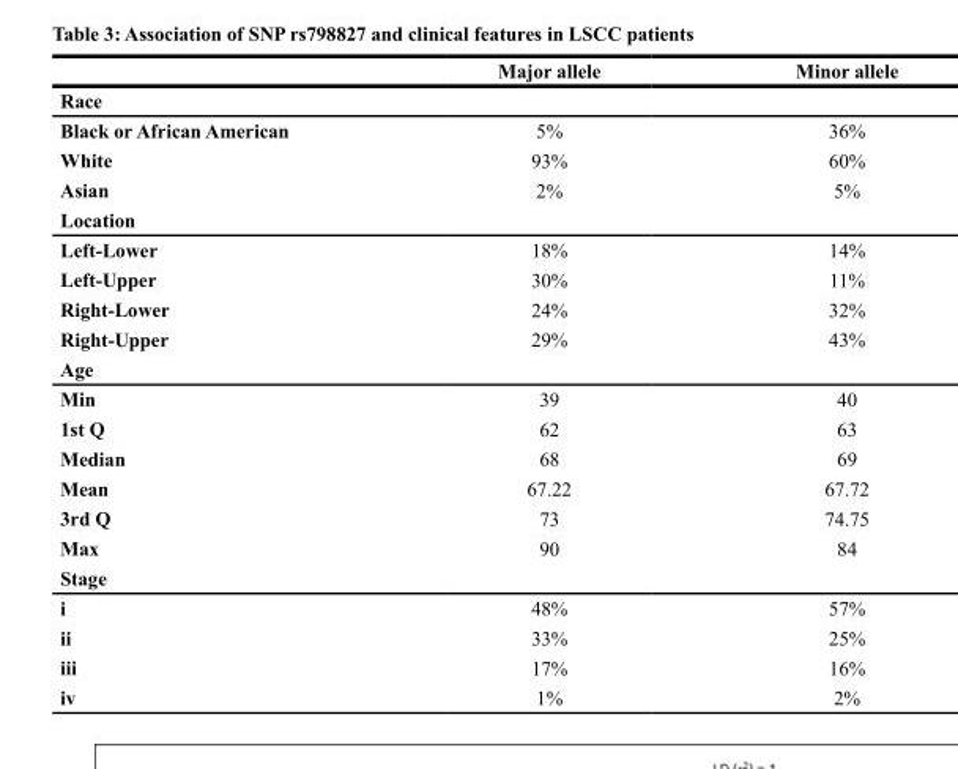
<table><thead><tr><td></td><td>Major allele</td><td>Minor allele</td></tr></thead><tbody><tr><td colspan="3">Race</td></tr><tr><td>Black or African American</td><td>5%</td><td>36%</td></tr><tr><td>White</td><td>93%</td><td>60%</td></tr><tr><td>Asian</td><td>2%</td><td>5%</td></tr><tr><td colspan="3">Location</td></tr><tr><td>Left-Lower</td><td>18%</td><td>14%</td></tr><tr><td>Left-Upper</td><td>30%</td><td>11%</td></tr><tr><td>Right-Lower</td><td>24%</td><td>32%</td></tr><tr><td>Right-Upper</td><td>29%</td><td>43%</td></tr><tr><td colspan="3">Age</td></tr><tr><td>Min</td><td>39</td><td>40</td></tr><tr><td>1st Q</td><td>62</td><td>63</td></tr><tr><td>Median</td><td>68</td><td>69</td></tr><tr><td>Mean</td><td>67.22</td><td>67.72</td></tr><tr><td>3rd Q</td><td>73</td><td>74.75</td></tr><tr><td>Max</td><td>90</td><td>84</td></tr><tr><td colspan="3">Stage</td></tr><tr><td>i</td><td>48%</td><td>57%</td></tr><tr><td>ii</td><td>33%</td><td>25%</td></tr><tr><td>iii</td><td>17%</td><td>16%</td></tr><tr><td>iv</td><td>1%</td><td>2%</td></tr></tbody></table>